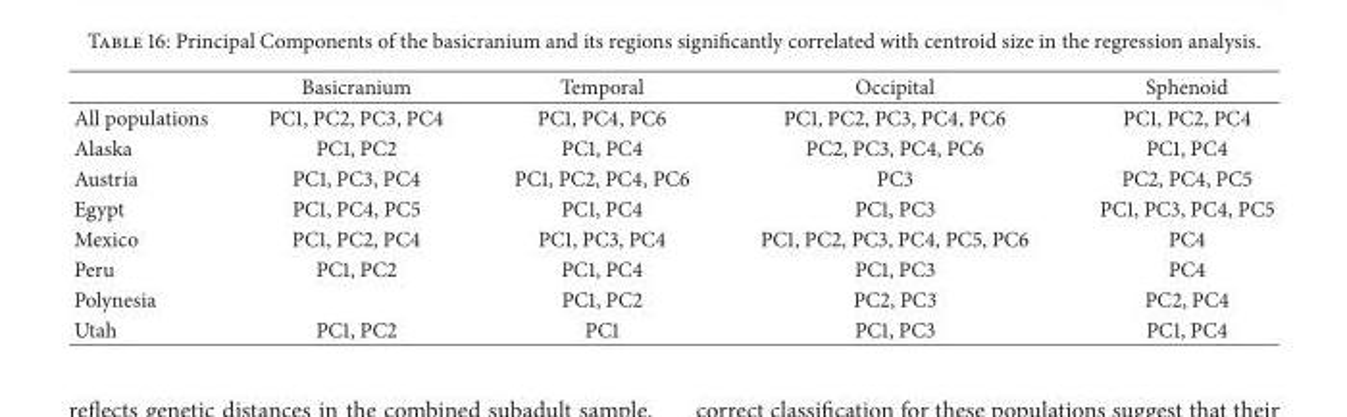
<table><thead><tr><td></td><td>Basicranium</td><td>Temporal</td><td>Occipital</td><td>Sphenoid</td></tr></thead><tbody><tr><td>All populations</td><td>PC1, PC2, PC3, PC4</td><td>PC1, PC4, PC6</td><td>PC1, PC2, PC3, PC4, PC6</td><td>PC1, PC2, PC4</td></tr><tr><td>Alaska</td><td>PC1, PC2</td><td>PC1, PC4</td><td>PC2, PC3, PC4, PC6</td><td>PC1, PC4</td></tr><tr><td>Austria</td><td>PC1, PC3, PC4</td><td>PC1, PC2, PC4, PC6</td><td>PC3</td><td>PC2, PC4, PC5</td></tr><tr><td>Egypt</td><td>PC1, PC4, PC5</td><td>PC1, PC4</td><td>PC1, PC3</td><td>PC1, PC3, PC4, PC5</td></tr><tr><td>Mexico</td><td>PC1, PC2, PC4</td><td>PC1, PC3, PC4</td><td>PC1, PC2, PC3, PC4, PC5, PC6</td><td>PC4</td></tr><tr><td>Peru</td><td>PC1, PC2</td><td>PC1, PC4</td><td>PC1, PC3</td><td>PC4</td></tr><tr><td>Polynesia</td><td></td><td>PC1, PC2</td><td>PC2, PC3</td><td>PC2, PC4</td></tr><tr><td>Utah</td><td>PC1, PC2</td><td>PC1</td><td>PC1, PC3</td><td>PC1, PC4</td></tr></tbody></table>